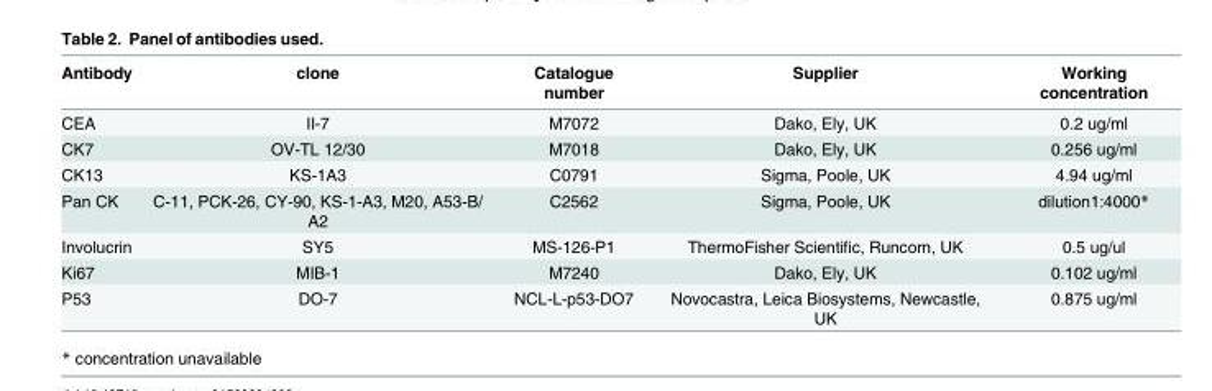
<table><thead><tr><td>Antibody</td><td>clone</td><td>Catalogue number</td><td>Supplier</td><td>Working concentration</td></tr></thead><tbody><tr><td>CEA</td><td>II-7</td><td>M7072</td><td>Dako, Ely, UK</td><td>0.2 ug/ml</td></tr><tr><td>CK7</td><td>OV-TL 12/30</td><td>M7018</td><td>Dako, Ely, UK</td><td>0.256 ug/ml</td></tr><tr><td>CK13</td><td>KS-1A3</td><td>C0791</td><td>Sigma, Poole, UK</td><td>4.94 ug/ml</td></tr><tr><td>Pan CK</td><td>C-11, PCK-26, CY-90, KS-1-A3, M20, A53-B/ A2</td><td>C2562</td><td>Sigma, Poole, UK</td><td>dilution1:4000*</td></tr><tr><td>Involucrin</td><td>SY5</td><td>MS-126-P1</td><td>ThermoFisher Scientific, Runcorn, UK</td><td>0.5 ug/ul</td></tr><tr><td>Ki67</td><td>MIB-1</td><td>M7240</td><td>Dako, Ely, UK</td><td>0.102 ug/ml</td></tr><tr><td>P53</td><td>DO-7</td><td>NCL-L-p53-DO7</td><td>Novocastra, Leica Biosystems, Newcastle, UK</td><td>0.875 ug/ml</td></tr></tbody></table>